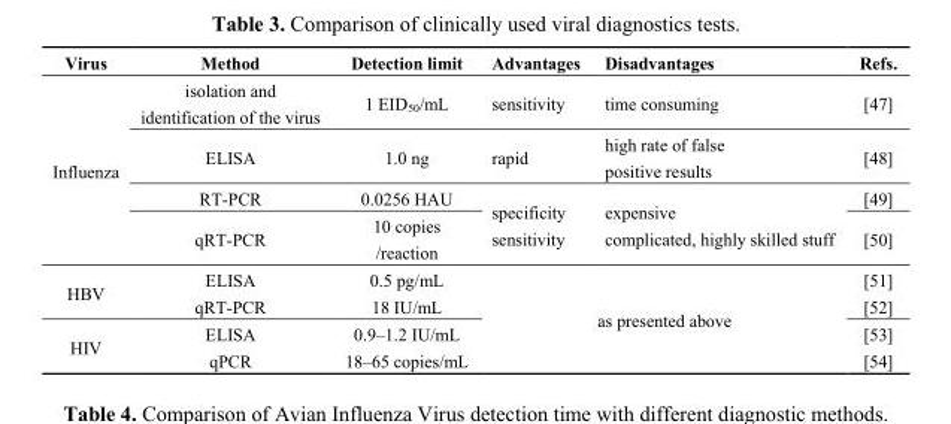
<table><thead><tr><td>Virus</td><td>Method</td><td>Detection limit</td><td>Advantages</td><td>Disadvantages</td><td>Refs.</td></tr></thead><tbody><tr><td rowspan="4">Influenza</td><td>isolation and identification of the virus</td><td>1 EID<sub>50</sub>/mL</td><td>sensitivity</td><td>time consuming</td><td>[47]</td></tr><tr><td>ELISA</td><td>1.0 ng</td><td>rapid</td><td>high rate of false positive results</td><td>[48]</td></tr><tr><td>RT-PCR</td><td>0.0256 HAU</td><td rowspan="2">specificity sensitivity</td><td rowspan="2">expensive complicated, highly skilled stuff</td><td>[49]</td></tr><tr><td>qRT-PCR</td><td>10 copies /reaction</td><td>[50]</td></tr><tr><td rowspan="2">HBV</td><td>ELISA</td><td>0.5 pg/mL</td><td rowspan="4" colspan="2">as presented above</td><td>[51]</td></tr><tr><td>qRT-PCR</td><td>18 IU/mL</td><td>[52]</td></tr><tr><td rowspan="2">HIV</td><td>ELISA</td><td>0.9–1.2 IU/mL</td><td>[53]</td></tr><tr><td>qPCR</td><td>18–65 copies/mL</td><td>[54]</td></tr></tbody></table>